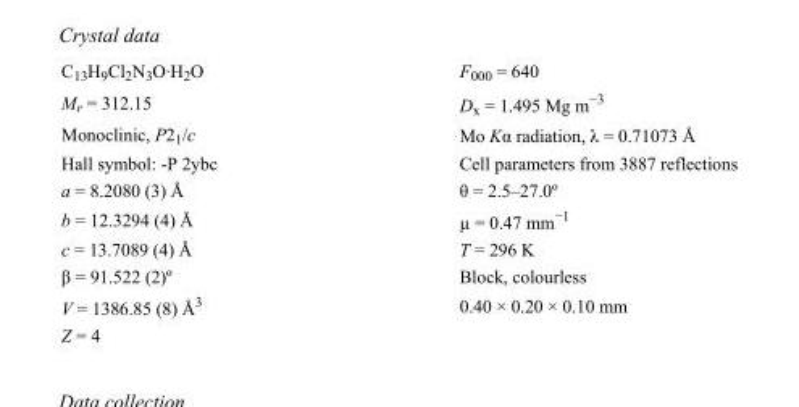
<table><tbody><tr><td>C<sub>13</sub>H<sub>9</sub>Cl<sub>2</sub>N<sub>3</sub>O·H<sub>2</sub>O</td><td>F000 = 640</td></tr><tr><td>M<sub>r</sub> = 312.15</td><td>D<sub>x</sub> = 1.495 Mg m<sup>−3</sup></td></tr><tr><td>Monoclinic, P2<sub>1</sub>/c</td><td>Mo Kα radiation, λ = 0.71073 Å</td></tr><tr><td>Hall symbol: -P 2ybc</td><td>Cell parameters from 3887 reflections</td></tr><tr><td>a = 8.2080 (3) Å</td><td>θ = 2.5–27.0º</td></tr><tr><td>b = 12.3294 (4) Å</td><td>µ = 0.47 mm<sup>−1</sup></td></tr><tr><td>c = 13.7089 (4) Å</td><td>T = 296 K</td></tr><tr><td>β = 91.522 (2)º</td><td>Block, colourless</td></tr><tr><td>V = 1386.85 (8) Å<sup>3</sup></td><td>0.40 × 0.20 × 0.10 mm</td></tr><tr><td>Z = 4</td><td></td></tr></tbody></table>